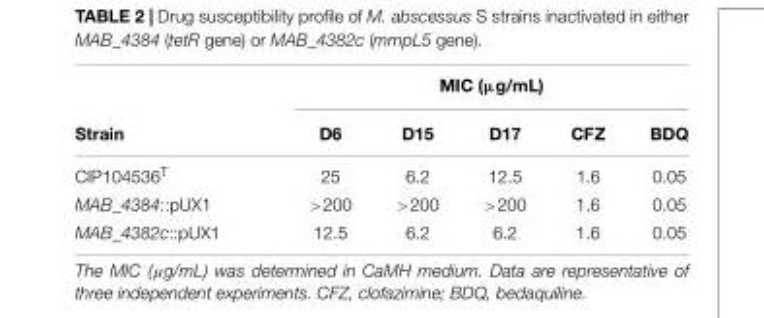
<table><thead><tr><td rowspan="2">Strain</td><td colspan="5">MIC (µg/mL)</td></tr><tr><td>D6</td><td>D15</td><td>D17</td><td>CFZ</td><td>BDQ</td></tr></thead><tbody><tr><td>CIP104536<sup>T</sup></td><td>25</td><td>6.2</td><td>12.5</td><td>1.6</td><td>0.05</td></tr><tr><td>MAB_4384::pUX1</td><td>&gt;200</td><td>&gt;200</td><td>&gt;200</td><td>1.6</td><td>0.05</td></tr><tr><td>MAB_4382c::pUX1</td><td>12.5</td><td>6.2</td><td>6.2</td><td>1.6</td><td>0.05</td></tr></tbody></table>